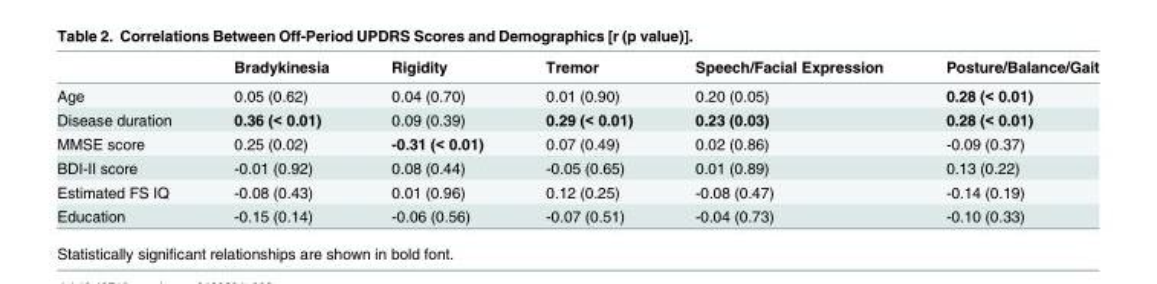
<table><thead><tr><td></td><td>Bradykinesia</td><td>Rigidity</td><td>Tremor</td><td>Speech/Facial Expression</td><td>Posture/Balance/Gait</td></tr></thead><tbody><tr><td>Age</td><td>0.05 (0.62)</td><td>0.04 (0.70)</td><td>0.01 (0.90)</td><td>0.20 (0.05)</td><td>0.28 (&lt; 0.01)</td></tr><tr><td>Disease duration</td><td>0.36 (&lt; 0.01)</td><td>0.09 (0.39)</td><td>0.29 (&lt; 0.01)</td><td>0.23 (0.03)</td><td>0.28 (&lt; 0.01)</td></tr><tr><td>MMSE score</td><td>0.25 (0.02)</td><td>-0.31 (&lt; 0.01)</td><td>0.07 (0.49)</td><td>0.02 (0.86)</td><td>-0.09 (0.37)</td></tr><tr><td>BDI-II score</td><td>-0.01 (0.92)</td><td>0.08 (0.44)</td><td>-0.05 (0.65)</td><td>0.01 (0.89)</td><td>0.13 (0.22)</td></tr><tr><td>Estimated FS IQ</td><td>-0.08 (0.43)</td><td>0.01 (0.96)</td><td>0.12 (0.25)</td><td>-0.08 (0.47)</td><td>-0.14 (0.19)</td></tr><tr><td>Education</td><td>-0.15 (0.14)</td><td>-0.06 (0.56)</td><td>-0.07 (0.51)</td><td>-0.04 (0.73)</td><td>-0.10 (0.33)</td></tr></tbody></table>